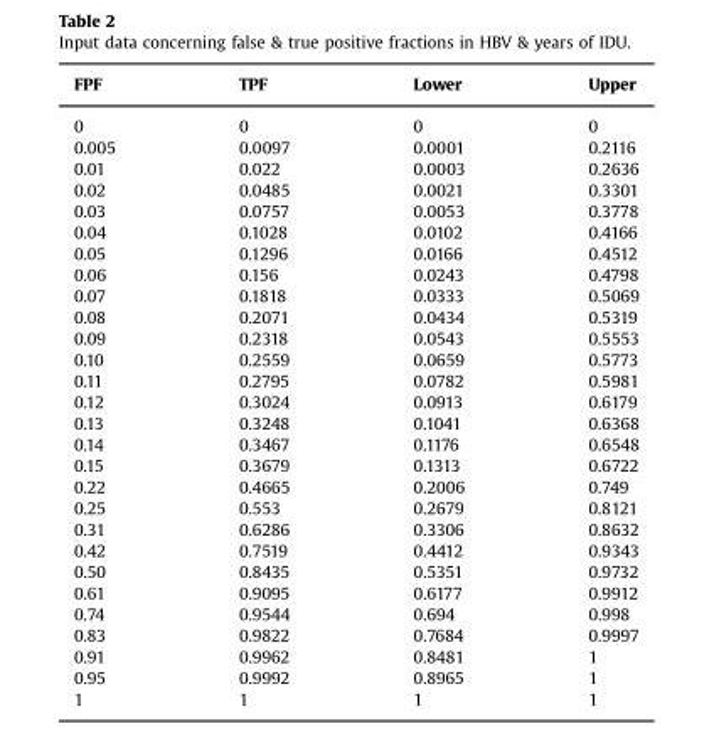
<table><thead><tr><td>FPF</td><td>TPF</td><td>Lower</td><td>Upper</td></tr></thead><tbody><tr><td>0</td><td>0</td><td>0</td><td>0</td></tr><tr><td>0.005</td><td>0.0097</td><td>0.0001</td><td>0.2116</td></tr><tr><td>0.01</td><td>0.022</td><td>0.0003</td><td>0.2636</td></tr><tr><td>0.02</td><td>0.0485</td><td>0.0021</td><td>0.3301</td></tr><tr><td>0.03</td><td>0.0757</td><td>0.0053</td><td>0.3778</td></tr><tr><td>0.04</td><td>0.1028</td><td>0.0102</td><td>0.4166</td></tr><tr><td>0.05</td><td>0.1296</td><td>0.0166</td><td>0.4512</td></tr><tr><td>0.06</td><td>0.156</td><td>0.0243</td><td>0.4798</td></tr><tr><td>0.07</td><td>0.1818</td><td>0.0333</td><td>0.5069</td></tr><tr><td>0.08</td><td>0.2071</td><td>0.0434</td><td>0.5319</td></tr><tr><td>0.09</td><td>0.2318</td><td>0.0543</td><td>0.5553</td></tr><tr><td>0.10</td><td>0.2559</td><td>0.0659</td><td>0.5773</td></tr><tr><td>0.11</td><td>0.2795</td><td>0.0782</td><td>0.5981</td></tr><tr><td>0.12</td><td>0.3024</td><td>0.0913</td><td>0.6179</td></tr><tr><td>0.13</td><td>0.3248</td><td>0.1041</td><td>0.6368</td></tr><tr><td>0.14</td><td>0.3467</td><td>0.1176</td><td>0.6548</td></tr><tr><td>0.15</td><td>0.3679</td><td>0.1313</td><td>0.6722</td></tr><tr><td>0.22</td><td>0.4665</td><td>0.2006</td><td>0.749</td></tr><tr><td>0.25</td><td>0.553</td><td>0.2679</td><td>0.8121</td></tr><tr><td>0.31</td><td>0.6286</td><td>0.3306</td><td>0.8632</td></tr><tr><td>0.42</td><td>0.7519</td><td>0.4412</td><td>0.9343</td></tr><tr><td>0.50</td><td>0.8435</td><td>0.5351</td><td>0.9732</td></tr><tr><td>0.61</td><td>0.9095</td><td>0.6177</td><td>0.9912</td></tr><tr><td>0.74</td><td>0.9544</td><td>0.694</td><td>0.998</td></tr><tr><td>0.83</td><td>0.9822</td><td>0.7684</td><td>0.9997</td></tr><tr><td>0.91</td><td>0.9962</td><td>0.8481</td><td>1</td></tr><tr><td>0.95</td><td>0.9992</td><td>0.8965</td><td>1</td></tr><tr><td>1</td><td>1</td><td>1</td><td>1</td></tr></tbody></table>